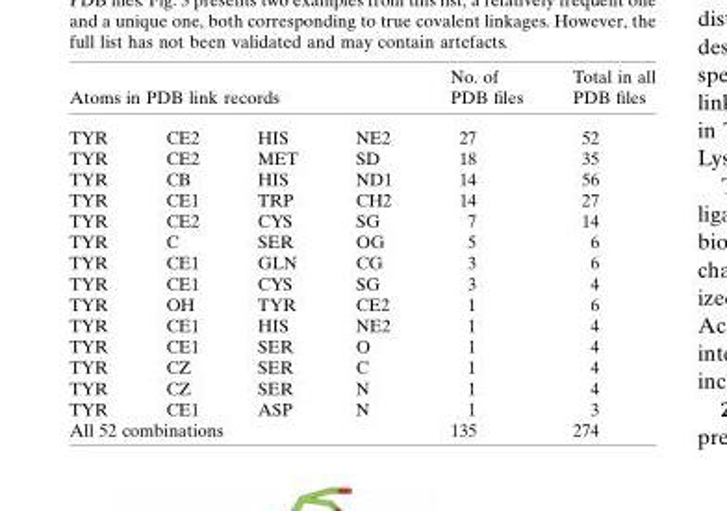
<table><thead><tr><td colspan="4">Atoms in PDB link records</td><td rowspan="2">No. of PDB files 27</td><td rowspan="2">Total in all PDB files 52</td></tr><tr><td>TYR</td><td>CE2</td><td>HIS</td><td>NE2</td></tr></thead><tbody><tr><td>TYR</td><td>CE2</td><td>MET</td><td>SD</td><td>18</td><td>35</td></tr><tr><td>TYR</td><td>CB</td><td>HIS</td><td>ND1</td><td>14</td><td>56</td></tr><tr><td>TYR</td><td>CE1</td><td>TRP</td><td>CH2</td><td>14</td><td>27</td></tr><tr><td>TYR</td><td>CE2</td><td>CYS</td><td>SG</td><td>7</td><td>14</td></tr><tr><td>TYR</td><td>C</td><td>SER</td><td>OG</td><td>5</td><td>6</td></tr><tr><td>TYR</td><td>CE1</td><td>GLN</td><td>CG</td><td>3</td><td>6</td></tr><tr><td>TYR</td><td>CE1</td><td>CYS</td><td>SG</td><td>3</td><td>4</td></tr><tr><td>TYR</td><td>OH</td><td>TYR</td><td>CE2</td><td>1</td><td>6</td></tr><tr><td>TYR</td><td>CE1</td><td>HIS</td><td>NE2</td><td>1</td><td>4</td></tr><tr><td>TYR</td><td>CE1</td><td>SER</td><td>O</td><td>1</td><td>4</td></tr><tr><td>TYR</td><td>CZ</td><td>SER</td><td>C</td><td>1</td><td>4</td></tr><tr><td>TYR</td><td>CZ</td><td>SER</td><td>N</td><td>1</td><td>4</td></tr><tr><td>TYR</td><td>CE1</td><td>ASP</td><td>N</td><td>1</td><td>3</td></tr><tr><td colspan="4">All 52 combinations</td><td>135</td><td>274</td></tr></tbody></table>